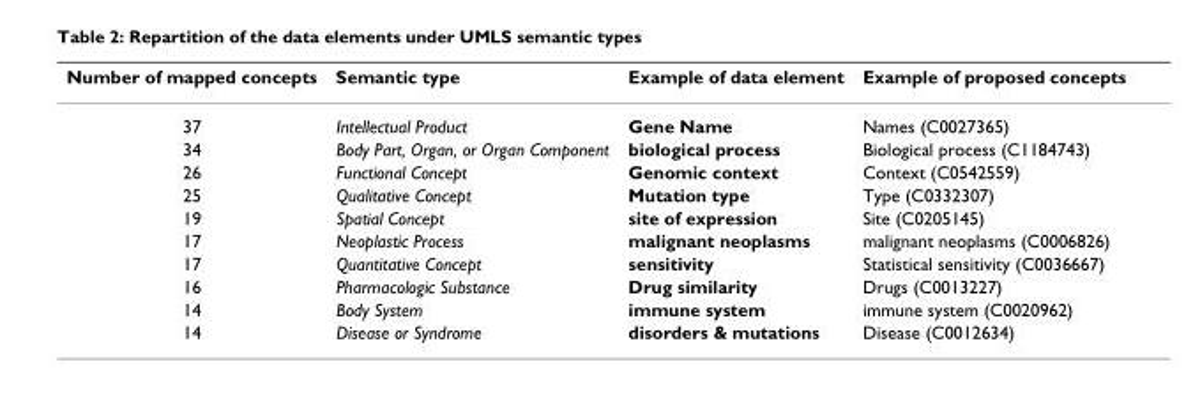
<table><thead><tr><td>Number of mapped concepts</td><td>Semantic type</td><td>Example of data element</td><td>Example of proposed concepts</td></tr></thead><tbody><tr><td>37</td><td>Intellectual Product</td><td>Gene Name</td><td>Names (C0027365)</td></tr><tr><td>34</td><td>Body Part, Organ, or Organ Component</td><td>biological process</td><td>Biological process (C1184743)</td></tr><tr><td>26</td><td>Functional Concept</td><td>Genomic context</td><td>Context (C0542559)</td></tr><tr><td>25</td><td>Qualitative Concept</td><td>Mutation type</td><td>Type (C0332307)</td></tr><tr><td>19</td><td>Spatial Concept</td><td>site of expression</td><td>Site (C0205145)</td></tr><tr><td>17</td><td>Neoplastic Process</td><td>malignant neoplasms</td><td>malignant neoplasms (C0006826)</td></tr><tr><td>17</td><td>Quantitative Concept</td><td>sensitivity</td><td>Statistical sensitivity (C0036667)</td></tr><tr><td>16</td><td>Pharmacologic Substance</td><td>Drug similarity</td><td>Drugs (C0013227)</td></tr><tr><td>14</td><td>Body System</td><td>immune system</td><td>immune system (C0020962)</td></tr><tr><td>14</td><td>Disease or Syndrome</td><td>disorders &amp; mutations</td><td>Disease (C0012634)</td></tr></tbody></table>